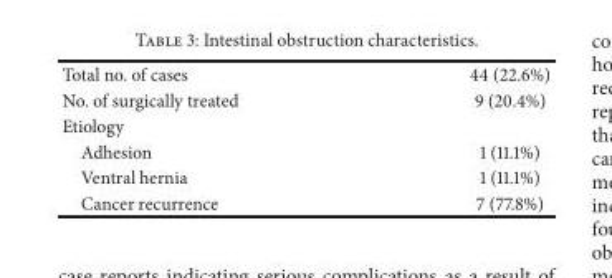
<table><tbody><tr><td>Total no. of cases</td><td>44 (22.6%)</td></tr><tr><td>No. of surgically treated</td><td>9 (20.4%)</td></tr><tr><td colspan="2">Etiology</td></tr><tr><td>Adhesion</td><td>1 (11.1%)</td></tr><tr><td>Ventral hernia</td><td>1 (11.1%)</td></tr><tr><td>Cancer recurrence</td><td>7 (77.8%)</td></tr></tbody></table>